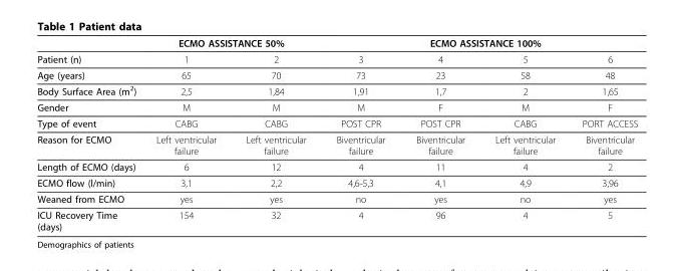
<table><thead><tr><td rowspan="2">Patient (n)</td><td colspan="2">ECMO ASSISTANCE 50%</td><td colspan="4">ECMO ASSISTANCE 100%</td></tr><tr><td>1</td><td>2</td><td>3</td><td>4</td><td>5</td><td>6</td></tr></thead><tbody><tr><td>Age (years)</td><td>65</td><td>70</td><td>73</td><td>23</td><td>58</td><td>48</td></tr><tr><td>Body Surface Area (m<sup>2</sup>)</td><td>2,5</td><td>1,84</td><td>1,91</td><td>1,7</td><td>2</td><td>1,65</td></tr><tr><td>Gender</td><td>M</td><td>M</td><td>M</td><td>F</td><td>M</td><td>F</td></tr><tr><td>Type of event</td><td>CABG</td><td>CABG</td><td>POST CPR</td><td>POST CPR</td><td>CABG</td><td>PORT ACCESS</td></tr><tr><td>Reason for ECMO</td><td>Left ventricular failure</td><td>Left ventricular failure</td><td>Biventricular failure</td><td>Biventricular failure</td><td>Left ventricular failure</td><td>Biventricular failure</td></tr><tr><td>Length of ECMO (days)</td><td>6</td><td>12</td><td>4</td><td>11</td><td>4</td><td>2</td></tr><tr><td>ECMO flow (l/min)</td><td>3,1</td><td>2,2</td><td>4,6-5,3</td><td>4,1</td><td>4,9</td><td>3,96</td></tr><tr><td>Weaned from ECMO</td><td>yes</td><td>yes</td><td>no</td><td>yes</td><td>no</td><td>yes</td></tr><tr><td>ICU Recovery Time (days)</td><td>154</td><td>32</td><td>4</td><td>96</td><td>4</td><td>5</td></tr></tbody></table>